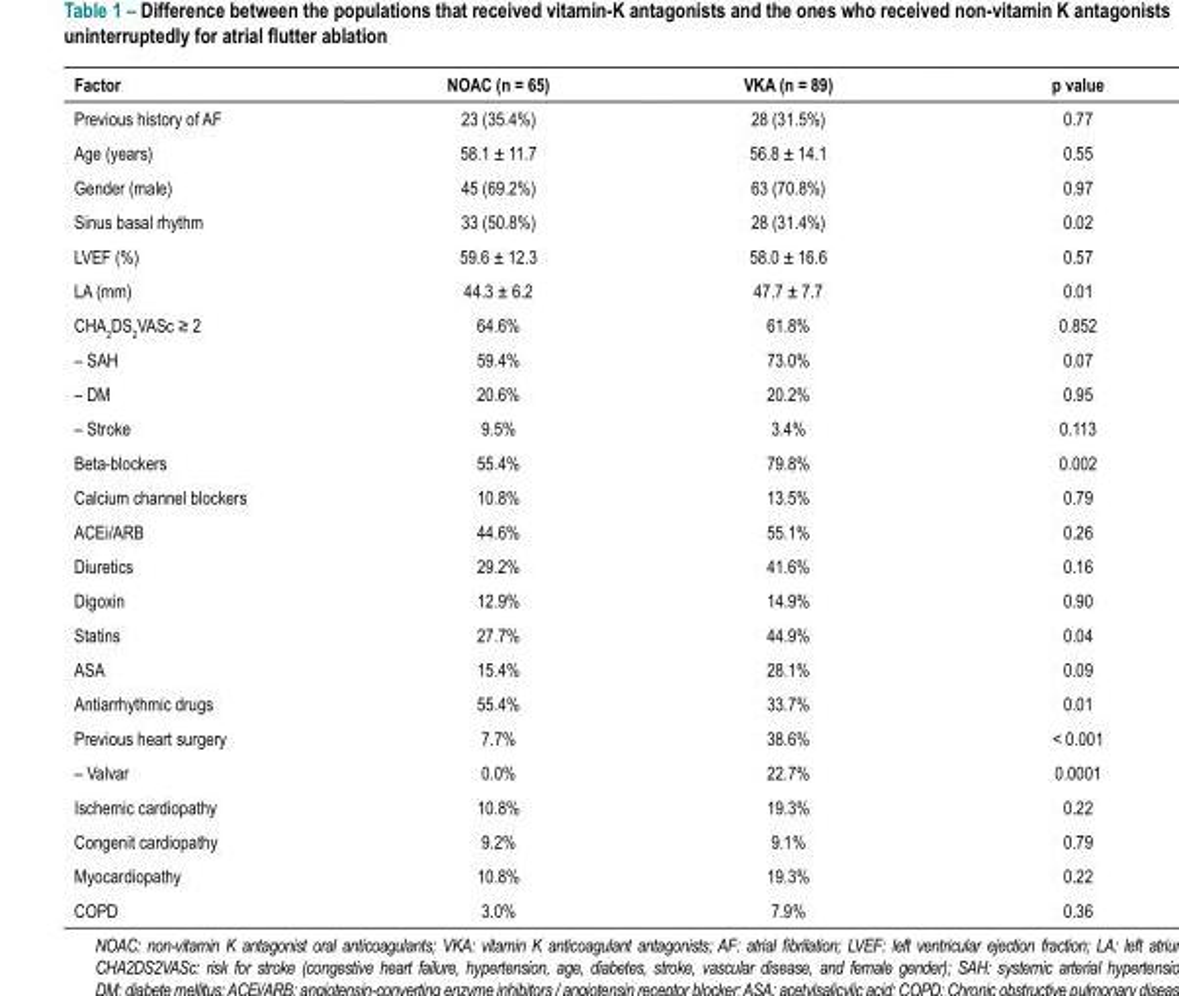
<table><thead><tr><td>Factor</td><td>NOAC (n = 65)</td><td>VKA (n = 89)</td><td>p value</td></tr></thead><tbody><tr><td>Previous history of AF</td><td>23 (35.4%)</td><td>28 (31.5%)</td><td>0.77</td></tr><tr><td>Age (years)</td><td>58.1 ± 11.7</td><td>56.8 ± 14.1</td><td>0.55</td></tr><tr><td>Gender (male)</td><td>45 (69.2%)</td><td>63 (70.8%)</td><td>0.97</td></tr><tr><td>Sinus basal rhythm</td><td>33 (50.8%)</td><td>28 (31.4%)</td><td>0.02</td></tr><tr><td>LVEF (%)</td><td>59.6 ± 12.3</td><td>58.0 ± 16.6</td><td>0.57</td></tr><tr><td>LA (mm)</td><td>44.3 ± 6.2</td><td>47.7 ± 7.7</td><td>0.01</td></tr><tr><td>CHA<sub>2</sub>DS<sub>2</sub>VASc ≥ 2</td><td>64.6%</td><td>61.8%</td><td>0.852</td></tr><tr><td>– SAH</td><td>59.4%</td><td>73.0%</td><td>0.07</td></tr><tr><td>– DM</td><td>20.6%</td><td>20.2%</td><td>0.95</td></tr><tr><td>– Stroke</td><td>9.5%</td><td>3.4%</td><td>0.113</td></tr><tr><td>Beta-blockers</td><td>55.4%</td><td>79.8%</td><td>0.002</td></tr><tr><td>Calcium channel blockers</td><td>10.8%</td><td>13.5%</td><td>0.79</td></tr><tr><td>ACEi/ARB</td><td>44.6%</td><td>55.1%</td><td>0.26</td></tr><tr><td>Diuretics</td><td>29.2%</td><td>41.6%</td><td>0.16</td></tr><tr><td>Digoxin</td><td>12.9%</td><td>14.9%</td><td>0.90</td></tr><tr><td>Statins</td><td>27.7%</td><td>44.9%</td><td>0.04</td></tr><tr><td>ASA</td><td>15.4%</td><td>28.1%</td><td>0.09</td></tr><tr><td>Antiarrhythmic drugs</td><td>55.4%</td><td>33.7%</td><td>0.01</td></tr><tr><td>Previous heart surgery</td><td>7.7%</td><td>38.6%</td><td>&lt; 0.001</td></tr><tr><td>– Valvar</td><td>0.0%</td><td>22.7%</td><td>0.0001</td></tr><tr><td>Ischemic cardiopathy</td><td>10.8%</td><td>19.3%</td><td>0.22</td></tr><tr><td>Congenit cardiopathy</td><td>9.2%</td><td>9.1%</td><td>0.79</td></tr><tr><td>Myocardiopathy</td><td>10.8%</td><td>19.3%</td><td>0.22</td></tr><tr><td>COPD</td><td>3.0%</td><td>7.9%</td><td>0.36</td></tr></tbody></table>